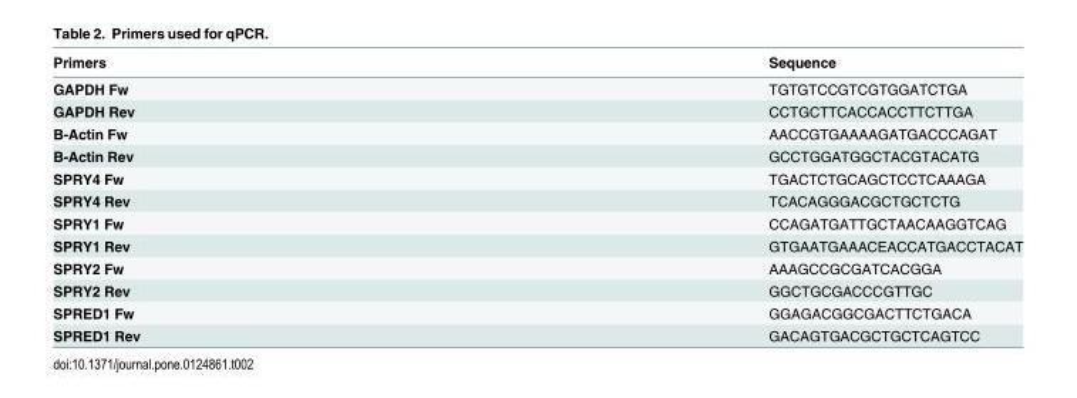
<table><thead><tr><td>Primers</td><td>Sequence</td></tr></thead><tbody><tr><td>GAPDH Fw</td><td>TGTGTCCGTCGTGGATCTGA</td></tr><tr><td>GAPDH Rev</td><td>CCTGCTTCACCACCTTCTTGA</td></tr><tr><td>B-Actin Fw</td><td>AACCGTGAAAAGATGACCCAGAT</td></tr><tr><td>B-Actin Rev</td><td>GCCTGGATGGCTACGTACATG</td></tr><tr><td>SPRY4 Fw</td><td>TGACTCTGCAGCTCCTCAAAGA</td></tr><tr><td>SPRY4 Rev</td><td>TCACAGGGACGCTGCTCTG</td></tr><tr><td>SPRY1 Fw</td><td>CCAGATGATTGCTAACAAGGTCAG</td></tr><tr><td>SPRY1 Rev</td><td>GTGAATGAAACEACCATGACCTACAT</td></tr><tr><td>SPRY2 Fw</td><td>AAAGCCGCGATCACGGA</td></tr><tr><td>SPRY2 Rev</td><td>GGCTGCGACCCGTTGC</td></tr><tr><td>SPRED1 Fw</td><td>GGAGACGGCGACTTCTGACA</td></tr><tr><td>SPRED1 Rev</td><td>GACAGTGACGCTGCTCAGTCC</td></tr></tbody></table>